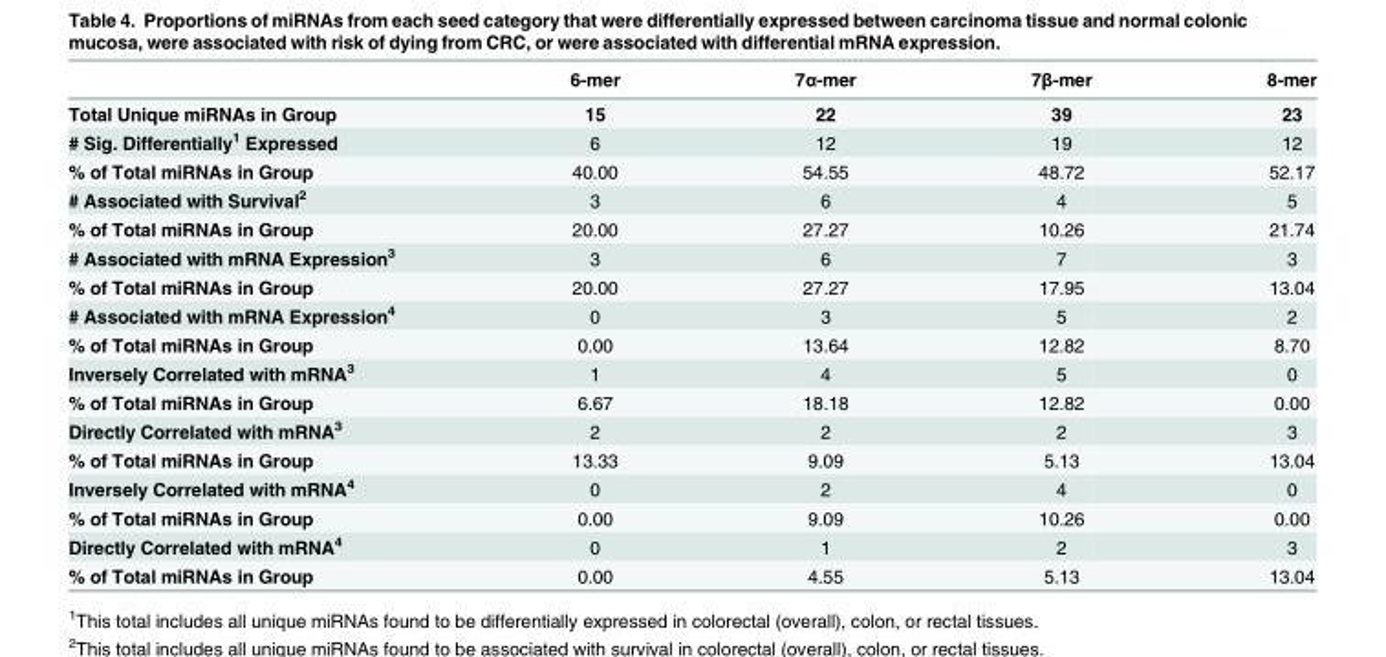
<table><thead><tr><td></td><td>6-mer</td><td>7α-mer</td><td>7β-mer</td><td>8-mer</td></tr></thead><tbody><tr><td>Total Unique miRNAs in Group</td><td>15</td><td>22</td><td>39</td><td>23</td></tr><tr><td># Sig. Differentially<sup>1</sup> Expressed</td><td>6</td><td>12</td><td>19</td><td>12</td></tr><tr><td>% of Total miRNAs in Group</td><td>40.00</td><td>54.55</td><td>48.72</td><td>52.17</td></tr><tr><td># Associated with Survival<sup>2</sup></td><td>3</td><td>6</td><td>4</td><td>5</td></tr><tr><td>% of Total miRNAs in Group</td><td>20.00</td><td>27.27</td><td>10.26</td><td>21.74</td></tr><tr><td># Associated with mRNA Expression<sup>3</sup></td><td>3</td><td>6</td><td>7</td><td>3</td></tr><tr><td>% of Total miRNAs in Group</td><td>20.00</td><td>27.27</td><td>17.95</td><td>13.04</td></tr><tr><td># Associated with mRNA Expression<sup>4</sup></td><td>0</td><td>3</td><td>5</td><td>2</td></tr><tr><td>% of Total miRNAs in Group</td><td>0.00</td><td>13.64</td><td>12.82</td><td>8.70</td></tr><tr><td>Inversely Correlated with mRNA<sup>3</sup></td><td>1</td><td>4</td><td>5</td><td>0</td></tr><tr><td>% of Total miRNAs in Group</td><td>6.67</td><td>18.18</td><td>12.82</td><td>0.00</td></tr><tr><td>Directly Correlated with mRNA<sup>3</sup></td><td>2</td><td>2</td><td>2</td><td>3</td></tr><tr><td>% of Total miRNAs in Group</td><td>13.33</td><td>9.09</td><td>5.13</td><td>13.04</td></tr><tr><td>Inversely Correlated with mRNA<sup>4</sup></td><td>0</td><td>2</td><td>4</td><td>0</td></tr><tr><td>% of Total miRNAs in Group</td><td>0.00</td><td>9.09</td><td>10.26</td><td>0.00</td></tr><tr><td>Directly Correlated with mRNA<sup>4</sup></td><td>0</td><td>1</td><td>2</td><td>3</td></tr><tr><td>% of Total miRNAs in Group</td><td>0.00</td><td>4.55</td><td>5.13</td><td>13.04</td></tr></tbody></table>